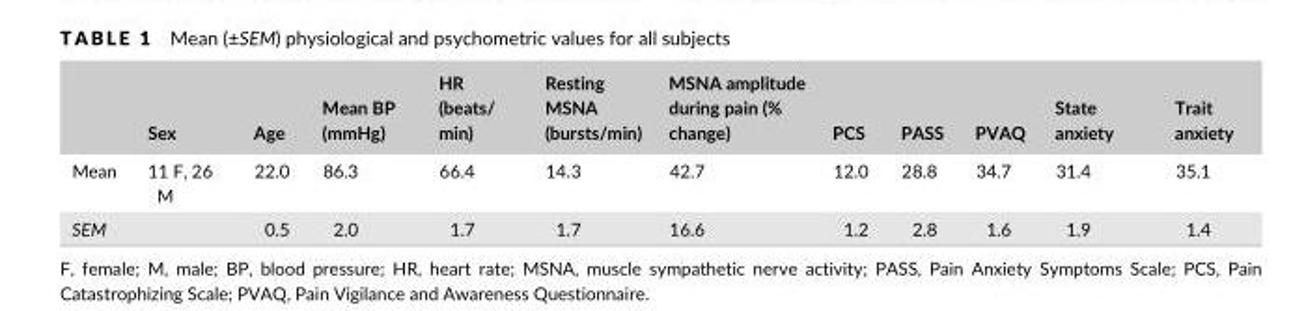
<table><thead><tr><td></td><td>Sex</td><td>Age</td><td>Mean BP (mmHg)</td><td>HR (beats/ min)</td><td>Resting MSNA (bursts/min)</td><td>MSNA amplitude during pain (% change)</td><td>PCS</td><td>PASS</td><td>PVAQ</td><td>State anxiety</td><td>Trait anxiety</td></tr></thead><tbody><tr><td>Mean</td><td>11 F, 26 M</td><td>22.0</td><td>86.3</td><td>66.4</td><td>14.3</td><td>42.7</td><td>12.0</td><td>28.8</td><td>34.7</td><td>31.4</td><td>35.1</td></tr><tr><td>SEM</td><td></td><td>0.5</td><td>2.0</td><td>1.7</td><td>1.7</td><td>16.6</td><td>1.2</td><td>2.8</td><td>1.6</td><td>1.9</td><td>1.4</td></tr></tbody></table>